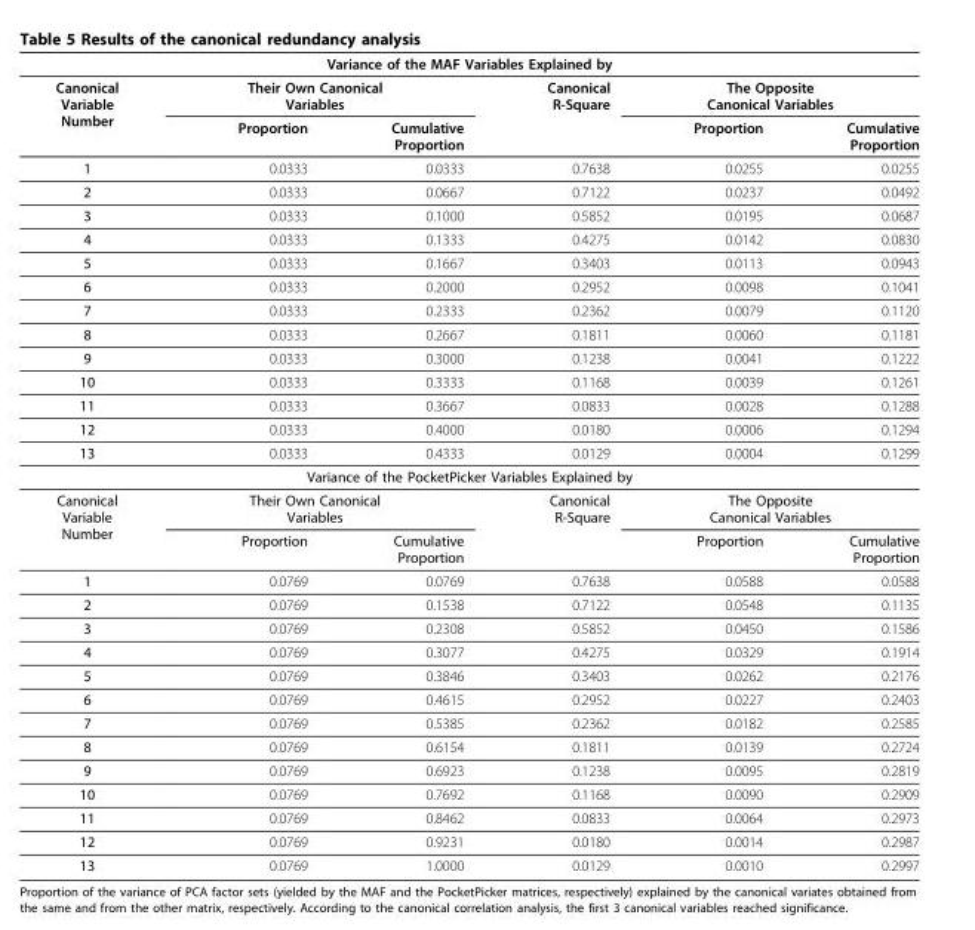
<table><thead><tr><td colspan="6">Variance of the MAF Variables Explained by</td></tr><tr><td rowspan="2">Canonical Variable Number</td><td colspan="2">Their Own Canonical Variables</td><td rowspan="2">Canonical R-Square</td><td colspan="2">The Opposite Canonical Variables</td></tr><tr><td>Proportion</td><td>Cumulative Proportion</td><td>Proportion</td><td>Cumulative Proportion</td></tr></thead><tbody><tr><td>1</td><td>0.0333</td><td>0.0333</td><td>0.7638</td><td>0.0255</td><td>0.0255</td></tr><tr><td>2</td><td>0.0333</td><td>0.0667</td><td>0.7122</td><td>0.0237</td><td>0.0492</td></tr><tr><td>3</td><td>0.0333</td><td>0.1000</td><td>0.5852</td><td>0.0195</td><td>0.0687</td></tr><tr><td>4</td><td>0.0333</td><td>0.1333</td><td>0.4275</td><td>0.0142</td><td>0.0830</td></tr><tr><td>5</td><td>0.0333</td><td>0.1667</td><td>0.3403</td><td>0.0113</td><td>0.0943</td></tr><tr><td>6</td><td>0.0333</td><td>0.2000</td><td>0.2952</td><td>0.0098</td><td>0.1041</td></tr><tr><td>7</td><td>0.0333</td><td>0.2333</td><td>0.2362</td><td>0.0079</td><td>0.1120</td></tr><tr><td>8</td><td>0.0333</td><td>0.2667</td><td>0.1811</td><td>0.0060</td><td>0.1181</td></tr><tr><td>9</td><td>0.0333</td><td>0.3000</td><td>0.1238</td><td>0.0041</td><td>0.1222</td></tr><tr><td>10</td><td>0.0333</td><td>0.3333</td><td>0.1168</td><td>0.0039</td><td>0.1261</td></tr><tr><td>11</td><td>0.0333</td><td>0.3667</td><td>0.0833</td><td>0.0028</td><td>0.1288</td></tr><tr><td>12</td><td>0.0333</td><td>0.4000</td><td>0.0180</td><td>0.0006</td><td>0.1294</td></tr><tr><td>13</td><td>0.0333</td><td>0.4333</td><td>0.0129</td><td>0.0004</td><td>0.1299</td></tr><tr><td colspan="6">Variance of the PocketPicker Variables Explained by</td></tr><tr><td rowspan="2">Canonical Variable Number</td><td colspan="2">Their Own Canonical Variables</td><td rowspan="2">Canonical R-Square</td><td colspan="2">The Opposite Canonical Variables</td></tr><tr><td>Proportion</td><td>Cumulative Proportion</td><td>Proportion</td><td>Cumulative Proportion</td></tr><tr><td>1</td><td>0.0769</td><td>0.0769</td><td>0.7638</td><td>0.0588</td><td>0.0588</td></tr><tr><td>2</td><td>0.0769</td><td>0.1538</td><td>0.7122</td><td>0.0548</td><td>0.1135</td></tr><tr><td>3</td><td>0.0769</td><td>0.2308</td><td>0.5852</td><td>0.0450</td><td>0.1586</td></tr><tr><td>4</td><td>0.0769</td><td>0.3077</td><td>0.4275</td><td>0.0329</td><td>0.1914</td></tr><tr><td>5</td><td>0.0769</td><td>0.3846</td><td>0.3403</td><td>0.0262</td><td>0.2176</td></tr><tr><td>6</td><td>0.0769</td><td>0.4615</td><td>0.2952</td><td>0.0227</td><td>0.2403</td></tr><tr><td>7</td><td>0.0769</td><td>0.5385</td><td>0.2362</td><td>0.0182</td><td>0.2585</td></tr><tr><td>8</td><td>0.0769</td><td>0.6154</td><td>0.1811</td><td>0.0139</td><td>0.2724</td></tr><tr><td>9</td><td>0.0769</td><td>0.6923</td><td>0.1238</td><td>0.0095</td><td>0.2819</td></tr><tr><td>10</td><td>0.0769</td><td>0.7692</td><td>0.1168</td><td>0.0090</td><td>0.2909</td></tr><tr><td>11</td><td>0.0769</td><td>0.8462</td><td>0.0833</td><td>0.0064</td><td>0.2973</td></tr><tr><td>12</td><td>0.0769</td><td>0.9231</td><td>0.0180</td><td>0.0014</td><td>0.2987</td></tr><tr><td>13</td><td>0.0769</td><td>1.0000</td><td>0.0129</td><td>0.0010</td><td>0.2997</td></tr></tbody></table>